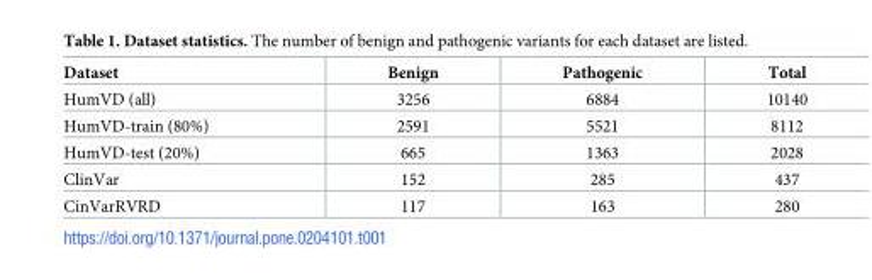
<table><thead><tr><td>Dataset</td><td>Benign</td><td>Pathogenic</td><td>Total</td></tr></thead><tbody><tr><td>HumVD (all)</td><td>3256</td><td>6884</td><td>10140</td></tr><tr><td>HumVD-train (80%)</td><td>2591</td><td>5521</td><td>8112</td></tr><tr><td>HumVD-test (20%)</td><td>665</td><td>1363</td><td>2028</td></tr><tr><td>ClinVar</td><td>152</td><td>285</td><td>437</td></tr><tr><td>CinVarRVRD</td><td>117</td><td>163</td><td>280</td></tr></tbody></table>